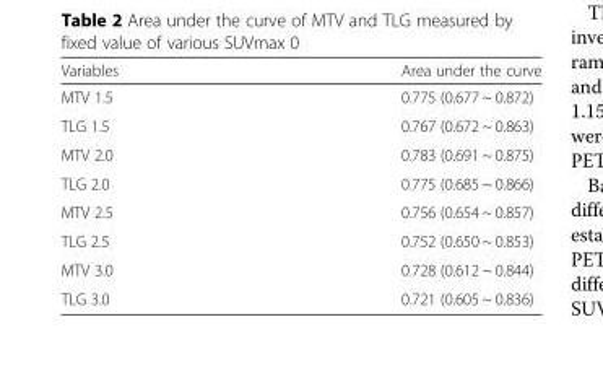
<table><thead><tr><td>Variables</td><td>Area under the curve</td></tr></thead><tbody><tr><td>MTV 1.5</td><td>0.775 (0.677 ~ 0.872)</td></tr><tr><td>TLG 1.5</td><td>0.767 (0.672 ~ 0.863)</td></tr><tr><td>MTV 2.0</td><td>0.783 (0.691 ~ 0.875)</td></tr><tr><td>TLG 2.0</td><td>0.775 (0.685 ~ 0.866)</td></tr><tr><td>MTV 2.5</td><td>0.756 (0.654 ~ 0.857)</td></tr><tr><td>TLG 2.5</td><td>0.752 (0.650 ~ 0.853)</td></tr><tr><td>MTV 3.0</td><td>0.728 (0.612 ~ 0.844)</td></tr><tr><td>TLG 3.0</td><td>0.721 (0.605 ~ 0.836)</td></tr></tbody></table>